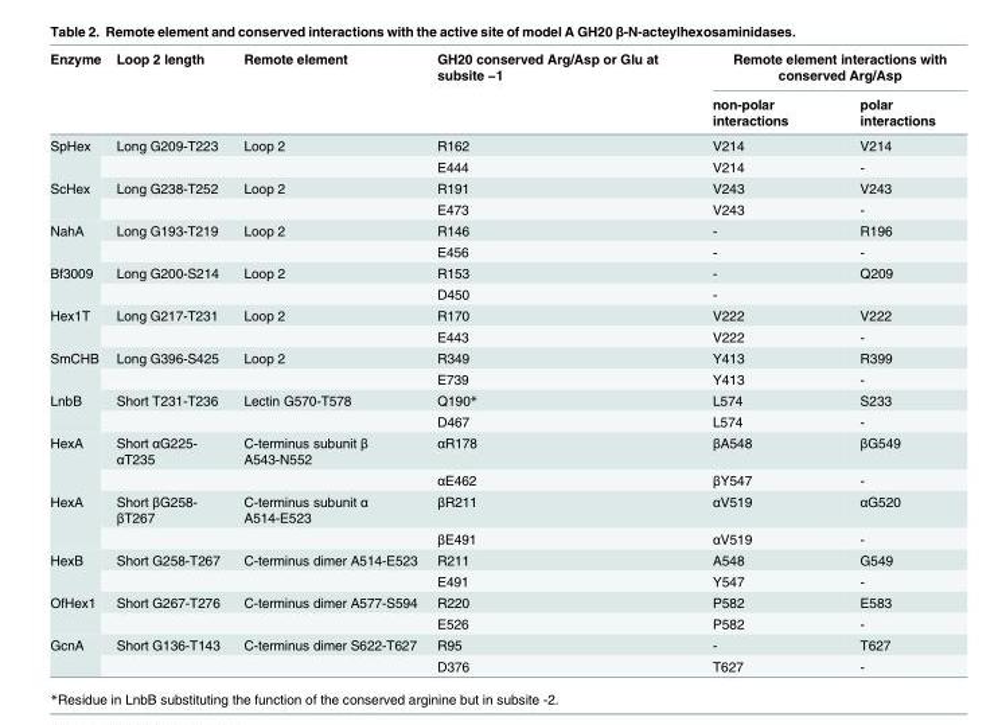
<table><thead><tr><td rowspan="2">Enzyme</td><td rowspan="2">Loop 2 length</td><td rowspan="2">Remote element</td><td rowspan="2">GH20 conserved Arg/Asp or Glu at subsite −1</td><td colspan="2">Remote element interactions with conserved Arg/Asp</td></tr><tr><td>non-polar interactions</td><td>polar interactions</td></tr></thead><tbody><tr><td rowspan="2">SpHex</td><td>Long G209-T223</td><td>Loop 2</td><td>R162</td><td>V214</td><td>V214</td></tr><tr><td></td><td></td><td>E444</td><td>V214</td><td>-</td></tr><tr><td rowspan="2">ScHex</td><td>Long G238-T252</td><td>Loop 2</td><td>R191</td><td>V243</td><td>V243</td></tr><tr><td></td><td></td><td>E473</td><td>V243</td><td>-</td></tr><tr><td rowspan="2">NahA</td><td>Long G193-T219</td><td>Loop 2</td><td>R146</td><td>-</td><td>R196</td></tr><tr><td></td><td></td><td>E456</td><td>-</td><td>-</td></tr><tr><td rowspan="2">Bf3009</td><td>Long G200-S214</td><td>Loop 2</td><td>R153</td><td>-</td><td>Q209</td></tr><tr><td></td><td></td><td>D450</td><td>-</td><td></td></tr><tr><td rowspan="2">Hex1T</td><td>Long G217-T231</td><td>Loop 2</td><td>R170</td><td>V222</td><td>V222</td></tr><tr><td></td><td></td><td>E443</td><td>V222</td><td>-</td></tr><tr><td rowspan="2">SmCHB</td><td>Long G396-S425</td><td>Loop 2</td><td>R349</td><td>Y413</td><td>R399</td></tr><tr><td></td><td></td><td>E739</td><td>Y413</td><td>-</td></tr><tr><td rowspan="2">LnbB</td><td>Short T231-T236</td><td>Lectin G570-T578</td><td>Q190*</td><td>L574</td><td>S233</td></tr><tr><td></td><td></td><td>D467</td><td>L574</td><td>-</td></tr><tr><td rowspan="2">HexA</td><td>Short αG225- αT235</td><td>C-terminus subunit β A543-N552</td><td>αR178</td><td>βA548</td><td>βG549</td></tr><tr><td></td><td></td><td>αE462</td><td>βY547</td><td>-</td></tr><tr><td rowspan="2">HexA</td><td>Short βG258- βT267</td><td>C-terminus subunit α A514-E523</td><td>βR211</td><td>αV519</td><td>αG520</td></tr><tr><td></td><td></td><td>βE491</td><td>αV519</td><td>-</td></tr><tr><td rowspan="2">HexB</td><td>Short G258-T267</td><td>C-terminus dimer A514-E523</td><td>R211</td><td>A548</td><td>G549</td></tr><tr><td></td><td></td><td>E491</td><td>Y547</td><td>-</td></tr><tr><td rowspan="2">OfHex1</td><td>Short G267-T276</td><td>C-terminus dimer A577-S594</td><td>R220</td><td>P582</td><td>E583</td></tr><tr><td></td><td></td><td>E526</td><td>P582</td><td>-</td></tr><tr><td rowspan="2">GcnA</td><td>Short G136-T143</td><td>C-terminus dimer S622-T627</td><td>R95</td><td>-</td><td>T627</td></tr><tr><td></td><td></td><td>D376</td><td>T627</td><td>-</td></tr></tbody></table>